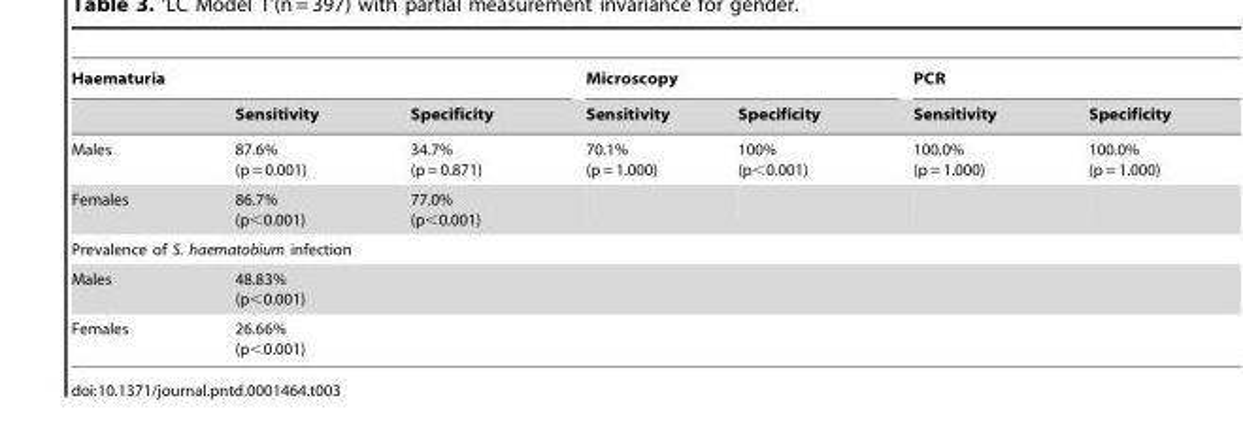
<table><thead><tr><td colspan="3">Haematuria</td><td colspan="2">Microscopy</td><td colspan="2">PCR</td></tr><tr><td></td><td>Sensitivity</td><td>Specificity</td><td>Sensitivity</td><td>Specificity</td><td>Sensitivity</td><td>Specificity</td></tr></thead><tbody><tr><td>Males</td><td>87.6% (p = 0.001)</td><td>34.7% (p = 0.871)</td><td>70.1% (p = 1.000)</td><td>100% (p&lt;0.001)</td><td>100.0% (p = 1.000)</td><td>100.0% (p = 1.000)</td></tr><tr><td>Females</td><td>86.7% (p&lt;0.001)</td><td>77.0% (p&lt;0.001)</td><td></td><td></td><td></td><td></td></tr><tr><td colspan="7">Prevalence of S. haematobium infection</td></tr><tr><td>Males</td><td colspan="6">48.83% (p&lt;0.001)</td></tr><tr><td>Females</td><td colspan="6">26.66% (p&lt;0.001)</td></tr></tbody></table>